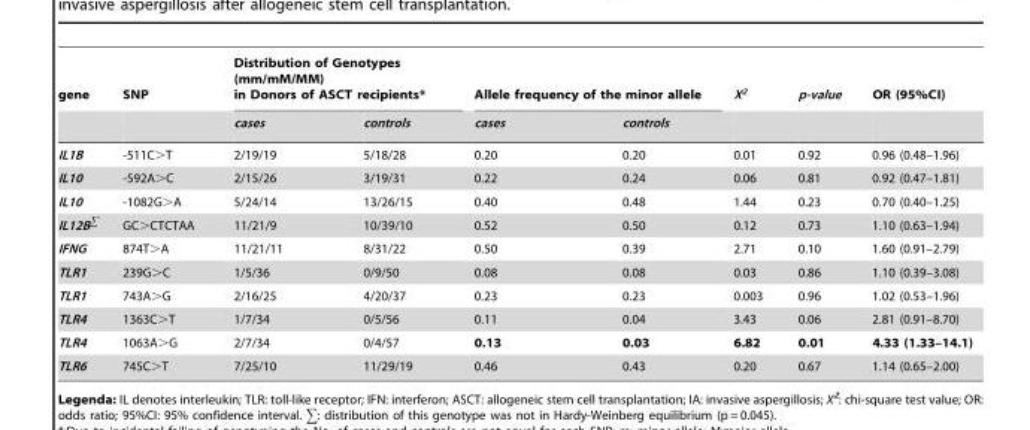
<table><thead><tr><td rowspan="2">gene</td><td rowspan="2">SNP</td><td colspan="2">Distribution of Genotypes (mm/mM/MM) in Donors of ASCT recipients*</td><td colspan="2">Allele frequency of the minor allele</td><td rowspan="2">X<sup>2</sup></td><td rowspan="2">p-value</td><td rowspan="2">OR (95%CI)</td></tr><tr><td>cases</td><td>controls</td><td>cases</td><td>controls</td></tr></thead><tbody><tr><td>IL1B</td><td>-511C&gt;T</td><td>2/19/19</td><td>5/18/28</td><td>0.20</td><td>0.20</td><td>0.01</td><td>0.92</td><td>0.96 (0.48–1.96)</td></tr><tr><td>IL10</td><td>-592A&gt;C</td><td>2/15/26</td><td>3/19/31</td><td>0.22</td><td>0.24</td><td>0.06</td><td>0.81</td><td>0.92 (0.47–1.81)</td></tr><tr><td>IL10</td><td>-1082G&gt;A</td><td>5/24/14</td><td>13/26/15</td><td>0.40</td><td>0.48</td><td>1.44</td><td>0.23</td><td>0.70 (0.40–1.25)</td></tr><tr><td>IL12B<sup>∑</sup></td><td>GC&gt;CTCTAA</td><td>11/21/9</td><td>10/39/10</td><td>0.52</td><td>0.50</td><td>0.12</td><td>0.73</td><td>1.10 (0.63–1.94)</td></tr><tr><td>IFNG</td><td>874T&gt;A</td><td>11/21/11</td><td>8/31/22</td><td>0.50</td><td>0.39</td><td>2.71</td><td>0.10</td><td>1.60 (0.91–2.79)</td></tr><tr><td>TLR1</td><td>239G&gt;C</td><td>1/5/36</td><td>0/9/50</td><td>0.08</td><td>0.08</td><td>0.03</td><td>0.86</td><td>1.10 (0.39–3.08)</td></tr><tr><td>TLR1</td><td>743A&gt;G</td><td>2/16/25</td><td>4/20/37</td><td>0.23</td><td>0.23</td><td>0.003</td><td>0.96</td><td>1.02 (0.53–1.96)</td></tr><tr><td>TLR4</td><td>1363C&gt;T</td><td>1/7/34</td><td>0/5/56</td><td>0.11</td><td>0.04</td><td>3.43</td><td>0.06</td><td>2.81 (0.91–8.70)</td></tr><tr><td>TLR4</td><td>1063A&gt;G</td><td>2/7/34</td><td>0/4/57</td><td>0.13</td><td>0.03</td><td>6.82</td><td>0.01</td><td>4.33 (1.33–14.1)</td></tr><tr><td>TLR6</td><td>745C&gt;T</td><td>7/25/10</td><td>11/29/19</td><td>0.46</td><td>0.43</td><td>0.20</td><td>0.67</td><td>1.14 (0.65–2.00)</td></tr></tbody></table>